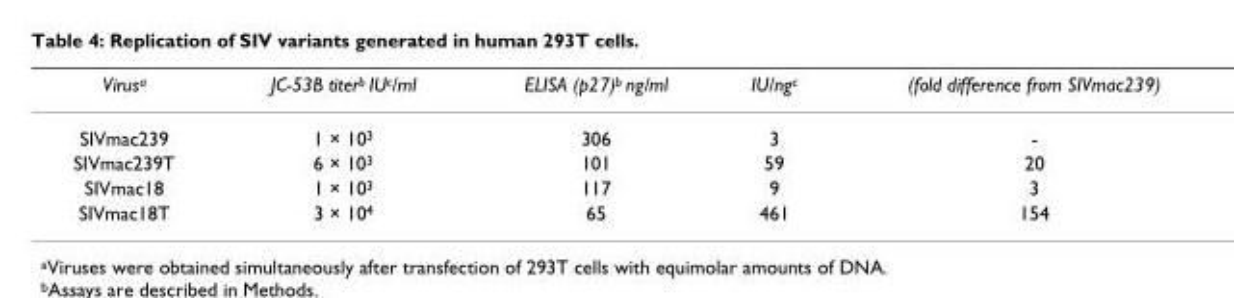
<table><thead><tr><td>Virus<sup>a</sup></td><td>JC-53B titer<sup>b</sup> IU<sup>c</sup>/ml</td><td>ELISA (p27)<sup>b</sup> ng/ml</td><td>IU/ng<sup>c</sup></td><td>(fold difference from SIVmac239)</td></tr></thead><tbody><tr><td>SIVmac239</td><td>1 × 10<sup>3</sup></td><td>306</td><td>3</td><td>-</td></tr><tr><td>SIVmac239T</td><td>6 × 10<sup>3</sup></td><td>101</td><td>59</td><td>20</td></tr><tr><td>SIVmac18</td><td>1 × 10<sup>3</sup></td><td>117</td><td>9</td><td>3</td></tr><tr><td>SIVmac18T</td><td>3 × 10<sup>4</sup></td><td>65</td><td>461</td><td>154</td></tr></tbody></table>